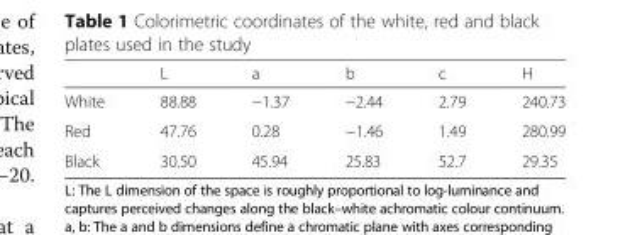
<table><thead><tr><td></td><td>L</td><td>a</td><td>b</td><td>c</td><td>H</td></tr></thead><tbody><tr><td>White</td><td>88.88</td><td>−1.37</td><td>−2.44</td><td>2.79</td><td>240.73</td></tr><tr><td>Red</td><td>47.76</td><td>0.28</td><td>−1.46</td><td>1.49</td><td>280.99</td></tr><tr><td>Black</td><td>30.50</td><td>45.94</td><td>25.83</td><td>52.7</td><td>29.35</td></tr></tbody></table>